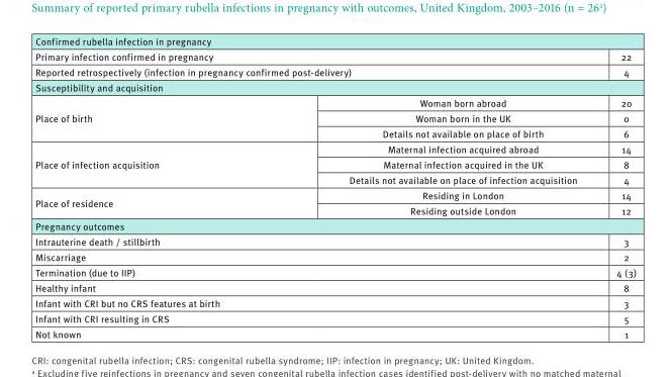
<table><tbody><tr><td colspan="3">Confirmed rubella infection in pregnancy</td></tr><tr><td colspan="2">Primary infection confirmed in pregnancy</td><td>22</td></tr><tr><td colspan="2">Reported retrospectively (infection in pregnancy confirmed post-delivery)</td><td>4</td></tr><tr><td colspan="3">Susceptibility and acquisition</td></tr><tr><td rowspan="3">Place of birth</td><td>Woman born abroad</td><td>20</td></tr><tr><td>Woman born in the UK</td><td>0</td></tr><tr><td>Details not available on place of birth</td><td>6</td></tr><tr><td rowspan="3">Place of infection acquisition</td><td>Maternal infection acquired abroad</td><td>14</td></tr><tr><td>Maternal infection acquired in the UK</td><td>8</td></tr><tr><td>Details not available on place of infection acquisition</td><td>4</td></tr><tr><td rowspan="2">Place of residence</td><td>Residing in London</td><td>14</td></tr><tr><td>Residing outside London</td><td>12</td></tr><tr><td colspan="3">Pregnancy outcomes</td></tr><tr><td colspan="2">Intrauterine death / stillbirth</td><td>3</td></tr><tr><td colspan="2">Miscarriage</td><td>2</td></tr><tr><td colspan="2">Termination (due to IIP)</td><td>4 (3)</td></tr><tr><td colspan="2">Healthy infant</td><td>8</td></tr><tr><td colspan="2">Infant with CRI but no CRS features at birth</td><td>3</td></tr><tr><td colspan="2">Infant with CRI resulting in CRS</td><td>5</td></tr><tr><td colspan="2">Not known</td><td>1</td></tr></tbody></table>